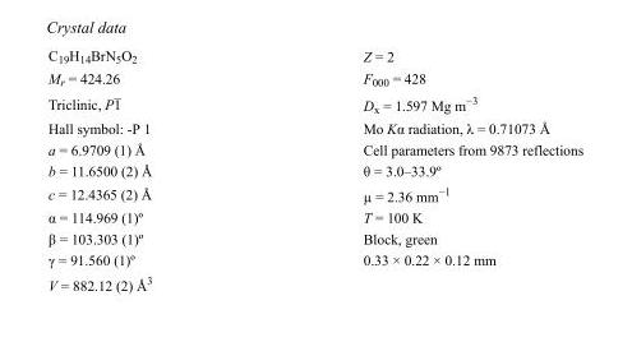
<table><tbody><tr><td>C<sub>19</sub>H<sub>14</sub>BrN<sub>5</sub>O<sub>2</sub></td><td>Z = 2</td></tr><tr><td>M<sub>r</sub> = 424.26</td><td>F000 = 428</td></tr><tr><td>Triclinic, P1</td><td>D<sub>x</sub> = 1.597 Mg m<sup>−3</sup></td></tr><tr><td>Hall symbol: -P 1</td><td>Mo Kα radiation, λ = 0.71073 Å</td></tr><tr><td>a = 6.9709 (1) Å</td><td>Cell parameters from 9873 reflections</td></tr><tr><td>b = 11.6500 (2) Å</td><td>θ = 3.0–33.9º</td></tr><tr><td>c = 12.4365 (2) Å</td><td>µ = 2.36 mm<sup>−1</sup></td></tr><tr><td>α = 114.969 (1)º</td><td>T = 100 K</td></tr><tr><td>β = 103.303 (1)º</td><td>Block, green</td></tr><tr><td>γ = 91.560 (1)º</td><td>0.33 × 0.22 × 0.12 mm</td></tr><tr><td>V = 882.12 (2) Å<sup>3</sup></td><td></td></tr></tbody></table>